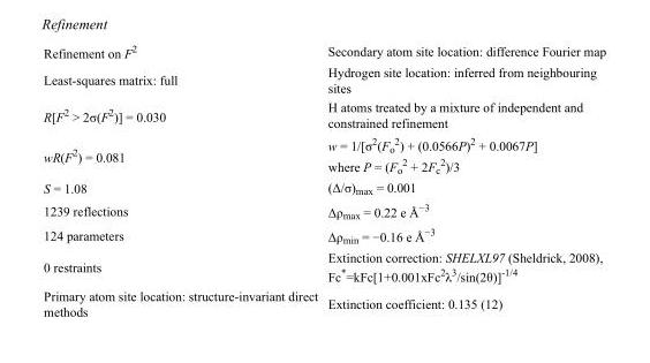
<table><tbody><tr><td>Refinement on F<sup>2</sup></td><td>Secondary atom site location: difference Fourier map</td></tr><tr><td>Least-squares matrix: full</td><td>Hydrogen site location: inferred from neighbouring sites</td></tr><tr><td>R[F<sup>2</sup> &gt; 2σ(F<sup>2</sup>)] = 0.030</td><td>H atoms treated by a mixture of independent and constrained refinement</td></tr><tr><td>wR(F<sup>2</sup>) = 0.081</td><td>w = 1/[σ<sup>2</sup>(F<sub>o</sub> <sup>2</sup>) + (0.0566P)<sup>2</sup> + 0.0067P] where P = (F<sub>o</sub> <sup>2</sup> + 2F<sub>c</sub> <sup>2</sup>)/3</td></tr><tr><td>S = 1.08</td><td>(Δ/σ)<sub>max</sub> = 0.001</td></tr><tr><td>1239 reflections</td><td>Δρ<sub>max</sub> = 0.22 e Å<sup>−3</sup></td></tr><tr><td>124 parameters</td><td>Δρ<sub>min</sub> = −0.16 e Å<sup>−3</sup></td></tr><tr><td>0 restraints</td><td>Extinction correction: SHELXL97 (Sheldrick, 2008), Fc*=kFc[1+0.001xFc<sup>2</sup>λ<sup>3</sup>/sin(2θ)]<sup>-1/4</sup></td></tr><tr><td>Primary atom site location: structure-invariant direct methods</td><td>Extinction coefficient: 0.135 (12)</td></tr></tbody></table>